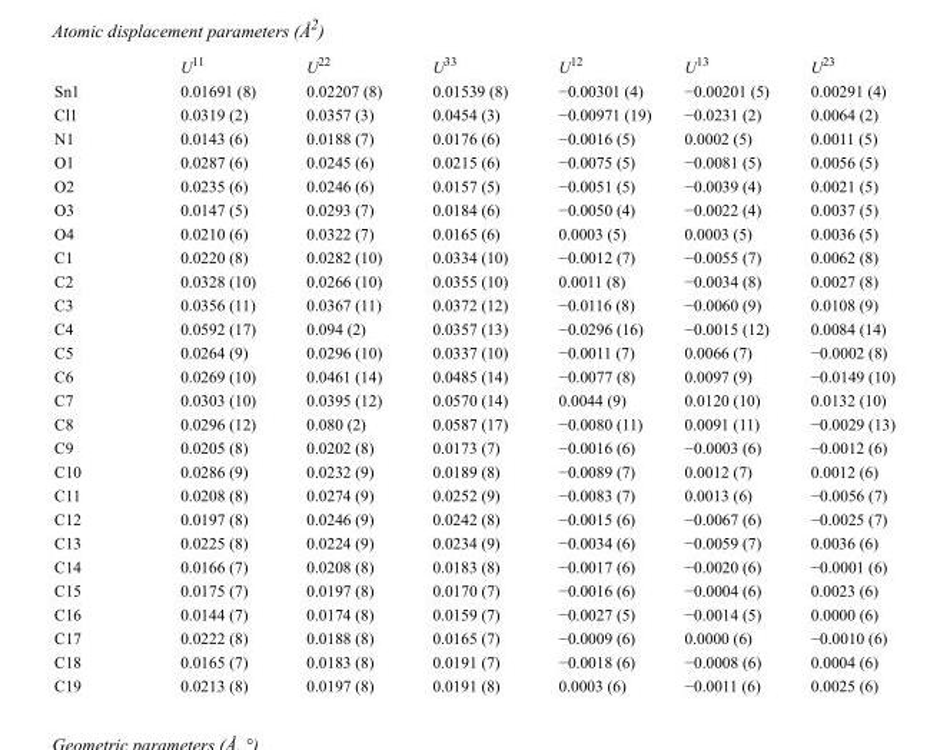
<table><thead><tr><td></td><td>U<sup>11</sup></td><td>U<sup>22</sup></td><td>U<sup>33</sup></td><td>U<sup>12</sup></td><td>U<sup>13</sup></td><td>U<sup>23</sup></td></tr></thead><tbody><tr><td>Sn1</td><td>0.01691 (8)</td><td>0.02207 (8)</td><td>0.01539 (8)</td><td>−0.00301 (4)</td><td>−0.00201 (5)</td><td>0.00291 (4)</td></tr><tr><td>Cl1</td><td>0.0319 (2)</td><td>0.0357 (3)</td><td>0.0454 (3)</td><td>−0.00971 (19)</td><td>−0.0231 (2)</td><td>0.0064 (2)</td></tr><tr><td>N1</td><td>0.0143 (6)</td><td>0.0188 (7)</td><td>0.0176 (6)</td><td>−0.0016 (5)</td><td>0.0002 (5)</td><td>0.0011 (5)</td></tr><tr><td>O1</td><td>0.0287 (6)</td><td>0.0245 (6)</td><td>0.0215 (6)</td><td>−0.0075 (5)</td><td>−0.0081 (5)</td><td>0.0056 (5)</td></tr><tr><td>O2</td><td>0.0235 (6)</td><td>0.0246 (6)</td><td>0.0157 (5)</td><td>−0.0051 (5)</td><td>−0.0039 (4)</td><td>0.0021 (5)</td></tr><tr><td>O3</td><td>0.0147 (5)</td><td>0.0293 (7)</td><td>0.0184 (6)</td><td>−0.0050 (4)</td><td>−0.0022 (4)</td><td>0.0037 (5)</td></tr><tr><td>O4</td><td>0.0210 (6)</td><td>0.0322 (7)</td><td>0.0165 (6)</td><td>0.0003 (5)</td><td>0.0003 (5)</td><td>0.0036 (5)</td></tr><tr><td>C1</td><td>0.0220 (8)</td><td>0.0282 (10)</td><td>0.0334 (10)</td><td>−0.0012 (7)</td><td>−0.0055 (7)</td><td>0.0062 (8)</td></tr><tr><td>C2</td><td>0.0328 (10)</td><td>0.0266 (10)</td><td>0.0355 (10)</td><td>0.0011 (8)</td><td>−0.0034 (8)</td><td>0.0027 (8)</td></tr><tr><td>C3</td><td>0.0356 (11)</td><td>0.0367 (11)</td><td>0.0372 (12)</td><td>−0.0116 (8)</td><td>−0.0060 (9)</td><td>0.0108 (9)</td></tr><tr><td>C4</td><td>0.0592 (17)</td><td>0.094 (2)</td><td>0.0357 (13)</td><td>−0.0296 (16)</td><td>−0.0015 (12)</td><td>0.0084 (14)</td></tr><tr><td>C5</td><td>0.0264 (9)</td><td>0.0296 (10)</td><td>0.0337 (10)</td><td>−0.0011 (7)</td><td>0.0066 (7)</td><td>−0.0002 (8)</td></tr><tr><td>C6</td><td>0.0269 (10)</td><td>0.0461 (14)</td><td>0.0485 (14)</td><td>−0.0077 (8)</td><td>0.0097 (9)</td><td>−0.0149 (10)</td></tr><tr><td>C7</td><td>0.0303 (10)</td><td>0.0395 (12)</td><td>0.0570 (14)</td><td>0.0044 (9)</td><td>0.0120 (10)</td><td>0.0132 (10)</td></tr><tr><td>C8</td><td>0.0296 (12)</td><td>0.080 (2)</td><td>0.0587 (17)</td><td>−0.0080 (11)</td><td>0.0091 (11)</td><td>−0.0029 (13)</td></tr><tr><td>C9</td><td>0.0205 (8)</td><td>0.0202 (8)</td><td>0.0173 (7)</td><td>−0.0016 (6)</td><td>−0.0003 (6)</td><td>−0.0012 (6)</td></tr><tr><td>C10</td><td>0.0286 (9)</td><td>0.0232 (9)</td><td>0.0189 (8)</td><td>−0.0089 (7)</td><td>0.0012 (7)</td><td>0.0012 (6)</td></tr><tr><td>C11</td><td>0.0208 (8)</td><td>0.0274 (9)</td><td>0.0252 (9)</td><td>−0.0083 (7)</td><td>0.0013 (6)</td><td>−0.0056 (7)</td></tr><tr><td>C12</td><td>0.0197 (8)</td><td>0.0246 (9)</td><td>0.0242 (8)</td><td>−0.0015 (6)</td><td>−0.0067 (6)</td><td>−0.0025 (7)</td></tr><tr><td>C13</td><td>0.0225 (8)</td><td>0.0224 (9)</td><td>0.0234 (9)</td><td>−0.0034 (6)</td><td>−0.0059 (7)</td><td>0.0036 (6)</td></tr><tr><td>C14</td><td>0.0166 (7)</td><td>0.0208 (8)</td><td>0.0183 (8)</td><td>−0.0017 (6)</td><td>−0.0020 (6)</td><td>−0.0001 (6)</td></tr><tr><td>C15</td><td>0.0175 (7)</td><td>0.0197 (8)</td><td>0.0170 (7)</td><td>−0.0016 (6)</td><td>−0.0004 (6)</td><td>0.0023 (6)</td></tr><tr><td>C16</td><td>0.0144 (7)</td><td>0.0174 (8)</td><td>0.0159 (7)</td><td>−0.0027 (5)</td><td>−0.0014 (5)</td><td>0.0000 (6)</td></tr><tr><td>C17</td><td>0.0222 (8)</td><td>0.0188 (8)</td><td>0.0165 (7)</td><td>−0.0009 (6)</td><td>0.0000 (6)</td><td>−0.0010 (6)</td></tr><tr><td>C18</td><td>0.0165 (7)</td><td>0.0183 (8)</td><td>0.0191 (7)</td><td>−0.0018 (6)</td><td>−0.0008 (6)</td><td>0.0004 (6)</td></tr><tr><td>C19</td><td>0.0213 (8)</td><td>0.0197 (8)</td><td>0.0191 (8)</td><td>0.0003 (6)</td><td>−0.0011 (6)</td><td>0.0025 (6)</td></tr></tbody></table>